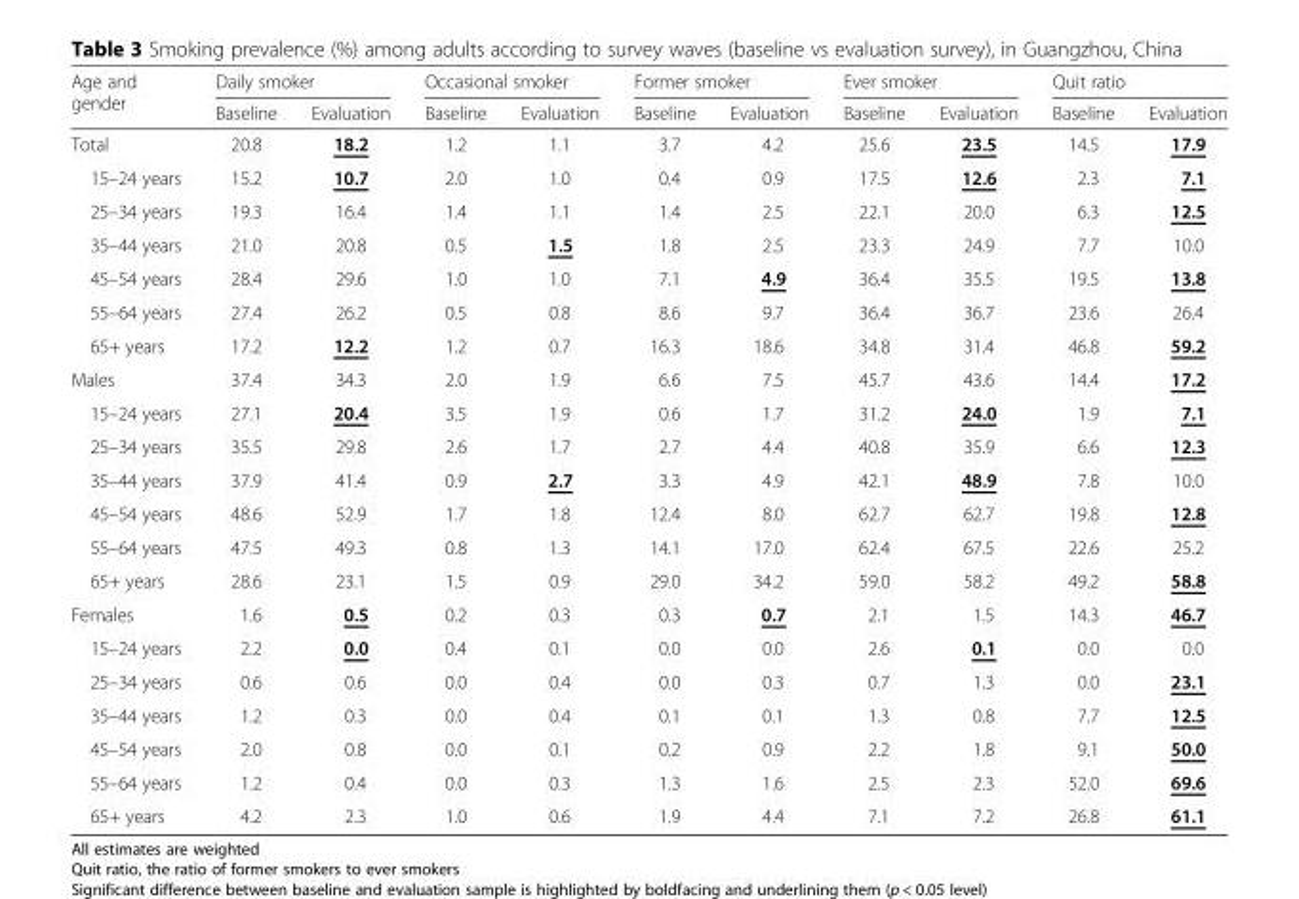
<table><thead><tr><td rowspan="2">Age and gender</td><td colspan="2">Daily smoker</td><td colspan="2">Occasional smoker</td><td colspan="2">Former smoker</td><td colspan="2">Ever smoker</td><td colspan="2">Quit ratio</td></tr><tr><td>Baseline</td><td>Evaluation</td><td>Baseline</td><td>Evaluation</td><td>Baseline</td><td>Evaluation</td><td>Baseline</td><td>Evaluation</td><td>Baseline</td><td>Evaluation</td></tr></thead><tbody><tr><td>Total</td><td>20.8</td><td>18.2</td><td>1.2</td><td>1.1</td><td>3.7</td><td>4.2</td><td>25.6</td><td>23.5</td><td>14.5</td><td>17.9</td></tr><tr><td>15–24 years</td><td>15.2</td><td>10.7</td><td>2.0</td><td>1.0</td><td>0.4</td><td>0.9</td><td>17.5</td><td>12.6</td><td>2.3</td><td>7.1</td></tr><tr><td>25–34 years</td><td>19.3</td><td>16.4</td><td>1.4</td><td>1.1</td><td>1.4</td><td>2.5</td><td>22.1</td><td>20.0</td><td>6.3</td><td>12.5</td></tr><tr><td>35–44 years</td><td>21.0</td><td>20.8</td><td>0.5</td><td>1.5</td><td>1.8</td><td>2.5</td><td>23.3</td><td>24.9</td><td>7.7</td><td>10.0</td></tr><tr><td>45–54 years</td><td>28.4</td><td>29.6</td><td>1.0</td><td>1.0</td><td>7.1</td><td>4.9</td><td>36.4</td><td>35.5</td><td>19.5</td><td>13.8</td></tr><tr><td>55–64 years</td><td>27.4</td><td>26.2</td><td>0.5</td><td>0.8</td><td>8.6</td><td>9.7</td><td>36.4</td><td>36.7</td><td>23.6</td><td>26.4</td></tr><tr><td>65+ years</td><td>17.2</td><td>12.2</td><td>1.2</td><td>0.7</td><td>16.3</td><td>18.6</td><td>34.8</td><td>31.4</td><td>46.8</td><td>59.2</td></tr><tr><td>Males</td><td>37.4</td><td>34.3</td><td>2.0</td><td>1.9</td><td>6.6</td><td>7.5</td><td>45.7</td><td>43.6</td><td>14.4</td><td>17.2</td></tr><tr><td>15–24 years</td><td>27.1</td><td>20.4</td><td>3.5</td><td>1.9</td><td>0.6</td><td>1.7</td><td>31.2</td><td>24.0</td><td>1.9</td><td>7.1</td></tr><tr><td>25–34 years</td><td>35.5</td><td>29.8</td><td>2.6</td><td>1.7</td><td>2.7</td><td>4.4</td><td>40.8</td><td>35.9</td><td>6.6</td><td>12.3</td></tr><tr><td>35–44 years</td><td>37.9</td><td>41.4</td><td>0.9</td><td>2.7</td><td>3.3</td><td>4.9</td><td>42.1</td><td>48.9</td><td>7.8</td><td>10.0</td></tr><tr><td>45–54 years</td><td>48.6</td><td>52.9</td><td>1.7</td><td>1.8</td><td>12.4</td><td>8.0</td><td>62.7</td><td>62.7</td><td>19.8</td><td>12.8</td></tr><tr><td>55–64 years</td><td>47.5</td><td>49.3</td><td>0.8</td><td>1.3</td><td>14.1</td><td>17.0</td><td>62.4</td><td>67.5</td><td>22.6</td><td>25.2</td></tr><tr><td>65+ years</td><td>28.6</td><td>23.1</td><td>1.5</td><td>0.9</td><td>29.0</td><td>34.2</td><td>59.0</td><td>58.2</td><td>49.2</td><td>58.8</td></tr><tr><td>Females</td><td>1.6</td><td>0.5</td><td>0.2</td><td>0.3</td><td>0.3</td><td>0.7</td><td>2.1</td><td>1.5</td><td>14.3</td><td>46.7</td></tr><tr><td>15–24 years</td><td>2.2</td><td>0.0</td><td>0.4</td><td>0.1</td><td>0.0</td><td>0.0</td><td>2.6</td><td>0.1</td><td>0.0</td><td>0.0</td></tr><tr><td>25–34 years</td><td>0.6</td><td>0.6</td><td>0.0</td><td>0.4</td><td>0.0</td><td>0.3</td><td>0.7</td><td>1.3</td><td>0.0</td><td>23.1</td></tr><tr><td>35–44 years</td><td>1.2</td><td>0.3</td><td>0.0</td><td>0.4</td><td>0.1</td><td>0.1</td><td>1.3</td><td>0.8</td><td>7.7</td><td>12.5</td></tr><tr><td>45–54 years</td><td>2.0</td><td>0.8</td><td>0.0</td><td>0.1</td><td>0.2</td><td>0.9</td><td>2.2</td><td>1.8</td><td>9.1</td><td>50.0</td></tr><tr><td>55–64 years</td><td>1.2</td><td>0.4</td><td>0.0</td><td>0.3</td><td>1.3</td><td>1.6</td><td>2.5</td><td>2.3</td><td>52.0</td><td>69.6</td></tr><tr><td>65+ years</td><td>4.2</td><td>2.3</td><td>1.0</td><td>0.6</td><td>1.9</td><td>4.4</td><td>7.1</td><td>7.2</td><td>26.8</td><td>61.1</td></tr></tbody></table>